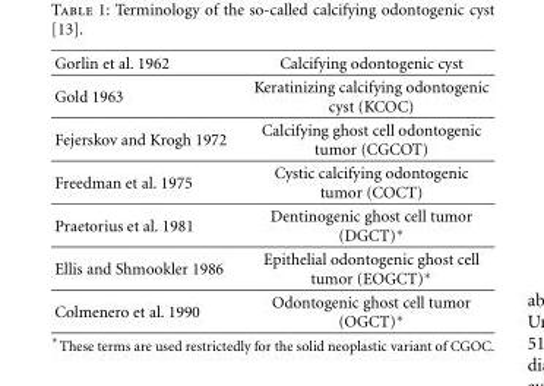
<table><tbody><tr><td>Gorlin et al. 1962</td><td>Calcifying odontogenic cyst</td></tr><tr><td>Gold 1963</td><td>Keratinizing calcifying odontogenic cyst (KCOC)</td></tr><tr><td>Fejerskov and Krogh 1972</td><td>Calcifying ghost cell odontogenic tumor (CGCOT)</td></tr><tr><td>Freedman et al. 1975</td><td>Cystic calcifying odontogenic tumor (COCT)</td></tr><tr><td>Praetorius et al. 1981</td><td>Dentinogenic ghost cell tumor (DGCT)∗</td></tr><tr><td>Ellis and Shmookler 1986</td><td>Epithelial odontogenic ghost cell tumor (EOGCT)∗</td></tr><tr><td>Colmenero et al. 1990</td><td>Odontogenic ghost cell tumor (OGCT)∗</td></tr></tbody></table>